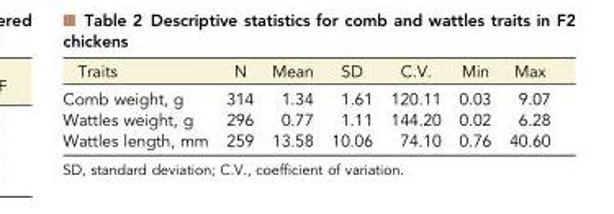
<table><thead><tr><td>Traits</td><td>N</td><td>Mean</td><td>SD</td><td>C.V.</td><td>Min</td><td>Max</td></tr></thead><tbody><tr><td>Comb weight, g</td><td>314</td><td>1.34</td><td>1.61</td><td>120.11</td><td>0.03</td><td>9.07</td></tr><tr><td>Wattles weight, g</td><td>296</td><td>0.77</td><td>1.11</td><td>144.20</td><td>0.02</td><td>6.28</td></tr><tr><td>Wattles length, mm</td><td>259</td><td>13.58</td><td>10.06</td><td>74.10</td><td>0.76</td><td>40.60</td></tr></tbody></table>